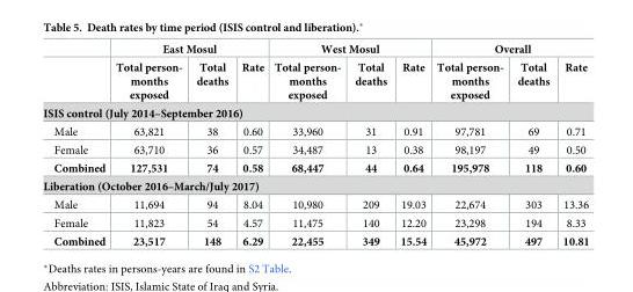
<table><thead><tr><td rowspan="2"></td><td colspan="3">East Mosul</td><td colspan="3">West Mosul</td><td colspan="3">Overall</td></tr><tr><td>Total person- months exposed</td><td>Total deaths</td><td>Rate</td><td>Total person- months exposed</td><td>Total deaths</td><td>Rate</td><td>Total person- months exposed</td><td>Total deaths</td><td>Rate</td></tr></thead><tbody><tr><td colspan="10">ISIS control (July 2014–September 2016)</td></tr><tr><td>Male</td><td>63,821</td><td>38</td><td>0.60</td><td>33,960</td><td>31</td><td>0.91</td><td>97,781</td><td>69</td><td>0.71</td></tr><tr><td>Female</td><td>63,710</td><td>36</td><td>0.57</td><td>34,487</td><td>13</td><td>0.38</td><td>98,197</td><td>49</td><td>0.50</td></tr><tr><td>Combined</td><td>127,531</td><td>74</td><td>0.58</td><td>68,447</td><td>44</td><td>0.64</td><td>195,978</td><td>118</td><td>0.60</td></tr><tr><td colspan="10">Liberation (October 2016–March/July 2017)</td></tr><tr><td>Male</td><td>11,694</td><td>94</td><td>8.04</td><td>10,980</td><td>209</td><td>19.03</td><td>22,674</td><td>303</td><td>13.36</td></tr><tr><td>Female</td><td>11,823</td><td>54</td><td>4.57</td><td>11,475</td><td>140</td><td>12.20</td><td>23,298</td><td>194</td><td>8.33</td></tr><tr><td>Combined</td><td>23,517</td><td>148</td><td>6.29</td><td>22,455</td><td>349</td><td>15.54</td><td>45,972</td><td>497</td><td>10.81</td></tr></tbody></table>